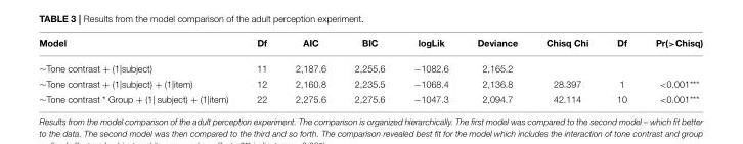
<table><thead><tr><td>Model</td><td>Df</td><td>AIC</td><td>BIC</td><td>logLik</td><td>Deviance</td><td>Chisq Chi</td><td>Df</td><td>Pr(&gt;Chisq)</td></tr></thead><tbody><tr><td>∼Tone contrast + (1|subject)</td><td>11</td><td>2,187.6</td><td>2,255.6</td><td>−1082.6</td><td>2,165.2</td><td></td><td></td><td></td></tr><tr><td>∼Tone contrast + (1|subject) + (1|item)</td><td>12</td><td>2,160.8</td><td>2,235.5</td><td>−1068.4</td><td>2,136.8</td><td>28.397</td><td>1</td><td>&lt;0.001***</td></tr><tr><td>∼Tone contrast * Group + (1| subject) + (1|item)</td><td>22</td><td>2,275.6</td><td>2,275.6</td><td>−1047.3</td><td>2,094.7</td><td>42.114</td><td>10</td><td>&lt;0.001***</td></tr></tbody></table>